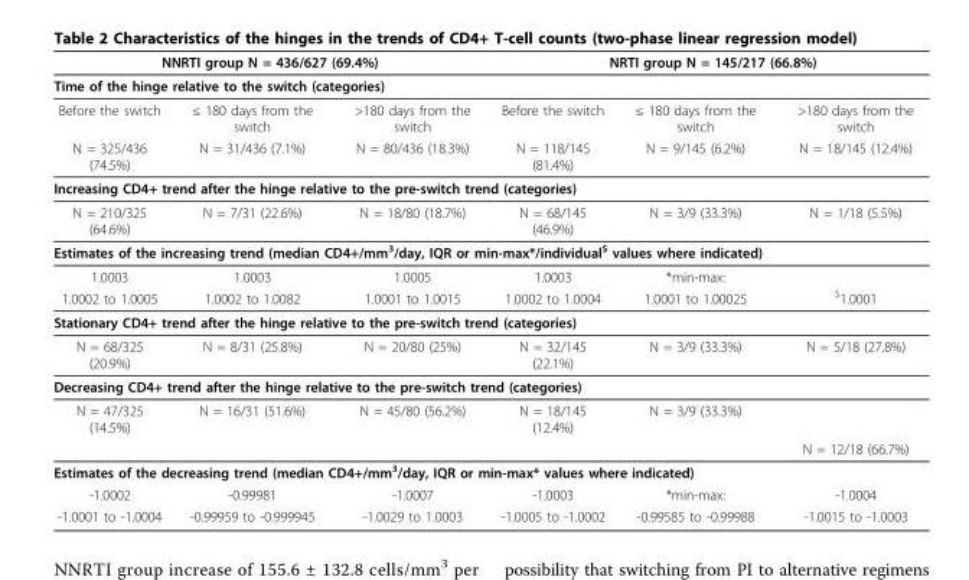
<table><thead><tr><td colspan="3">NNRTI group N = 436/627 (69.4%)</td><td colspan="3">NRTI group N = 145/217 (66.8%)</td></tr><tr><td colspan="6">Time of the hinge relative to the switch (categories)</td></tr><tr><td>Before the switch</td><td>≤ 180 days from the switch</td><td>&gt;180 days from the switch</td><td>Before the switch</td><td>≤ 180 days from the switch</td><td>&gt;180 days from the switch</td></tr></thead><tbody><tr><td>N = 325/436 (74.5%)</td><td>N = 31/436 (7.1%)</td><td>N = 80/436 (18.3%)</td><td>N = 118/145 (81.4%)</td><td>N = 9/145 (6.2%)</td><td>N = 18/145 (12.4%)</td></tr><tr><td colspan="6">Increasing CD4+ trend after the hinge relative to the pre-switch trend (categories)</td></tr><tr><td>N = 210/325 (64.6%)</td><td>N = 7/31 (22.6%)</td><td>N = 18/80 (18.7%)</td><td>N = 68/145 (46.9%)</td><td>N = 3/9 (33.3%)</td><td>N = 1/18 (5.5%)</td></tr><tr><td colspan="6">Estimates of the increasing trend (median CD4+/mm<sup>3</sup>/day, IQR or min-max*/individual<sup>$</sup> values where indicated)</td></tr><tr><td>1.0003</td><td>1.0003</td><td>1.0005</td><td>1.0003</td><td>*min-max:</td><td></td></tr><tr><td>1.0002 to 1.0005</td><td>1.0002 to 1.0082</td><td>1.0001 to 1.0015</td><td>1.0002 to 1.0004</td><td>1.0001 to 1.00025</td><td><sup>$</sup>1.0001</td></tr><tr><td colspan="6">Stationary CD4+ trend after the hinge relative to the pre-switch trend (categories)</td></tr><tr><td>N = 68/325 (20.9%)</td><td>N = 8/31 (25.8%)</td><td>N = 20/80 (25%)</td><td>N = 32/145 (22.1%)</td><td>N = 3/9 (33.3%)</td><td>N = 5/18 (27.8%)</td></tr><tr><td colspan="6">Decreasing CD4+ trend after the hinge relative to the pre-switch trend (categories)</td></tr><tr><td rowspan="2">N = 47/325 (14.5%)</td><td>N = 16/31 (51.6%)</td><td>N = 45/80 (56.2%)</td><td>N = 18/145 (12.4%)</td><td>N = 3/9 (33.3%)</td><td></td></tr><tr><td></td><td></td><td></td><td></td><td>N = 12/18 (66.7%)</td></tr><tr><td colspan="6">Estimates of the decreasing trend (median CD4+/mm<sup>3</sup>/day, IQR or min-max* values where indicated)</td></tr><tr><td>-1.0002</td><td>-0.99981</td><td>-1.0007</td><td>-1.0003</td><td>*min-max:</td><td>-1.0004</td></tr><tr><td>-1.0001 to -1.0004</td><td>-0.99959 to -0.999945</td><td>-1.0029 to 1.0003</td><td>-1.0005 to -1.0002</td><td>-0.99585 to -0.99988</td><td>-1.0015 to -1.0003</td></tr></tbody></table>